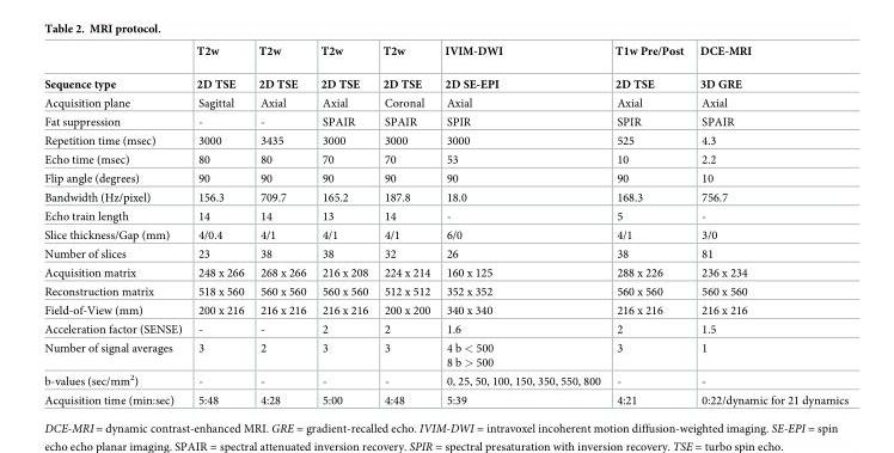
<table><thead><tr><td rowspan="2">Sequence type</td><td rowspan="2">T2w 2D TSE</td><td rowspan="2">T2w 2D TSE</td><td rowspan="2">T2w 2D TSE</td><td rowspan="2">T2w 2D TSE</td><td rowspan="2">IVIM-DWI 2D SE-EPI</td><td rowspan="2">T1w Pre/Post 2D TSE</td><td rowspan="2">DCE-MRI 3D GRE</td></tr><tr></tr></thead><tbody><tr><td>Acquisition plane</td><td>Sagittal</td><td>Axial</td><td>Axial</td><td>Coronal</td><td>Axial</td><td>Axial</td><td>Axial</td></tr><tr><td>Fat suppression</td><td>-</td><td>-</td><td>SPAIR</td><td>SPAIR</td><td>SPIR</td><td>SPIR</td><td>SPAIR</td></tr><tr><td>Repetition time (msec)</td><td>3000</td><td>3435</td><td>3000</td><td>3000</td><td>3000</td><td>525</td><td>4.3</td></tr><tr><td>Echo time (msec)</td><td>80</td><td>80</td><td>70</td><td>70</td><td>53</td><td>10</td><td>2.2</td></tr><tr><td>Flip angle (degrees)</td><td>90</td><td>90</td><td>90</td><td>90</td><td>90</td><td>90</td><td>10</td></tr><tr><td>Bandwidth (Hz/pixel)</td><td>156.3</td><td>709.7</td><td>165.2</td><td>187.8</td><td>18.0</td><td>168.3</td><td>756.7</td></tr><tr><td>Echo train length</td><td>14</td><td>14</td><td>13</td><td>14</td><td>-</td><td>5</td><td>-</td></tr><tr><td>Slice thickness/Gap (mm)</td><td>4/0.4</td><td>4/1</td><td>4/1</td><td>4/1</td><td>6/0</td><td>4/1</td><td>3/0</td></tr><tr><td>Number of slices</td><td>23</td><td>38</td><td>38</td><td>32</td><td>26</td><td>38</td><td>81</td></tr><tr><td>Acquisition matrix</td><td>248 x 266</td><td>268 x 266</td><td>216 x 208</td><td>224 x 214</td><td>160 x 125</td><td>288 x 226</td><td>236 x 234</td></tr><tr><td>Reconstruction matrix</td><td>518 x 560</td><td>560 x 560</td><td>560 x 560</td><td>512 x 512</td><td>352 x 352</td><td>560 x 560</td><td>560 x 560</td></tr><tr><td>Field-of-View (mm)</td><td>200 x 216</td><td>216 x 216</td><td>216 x 216</td><td>200 x 200</td><td>340 x 340</td><td>216 x 216</td><td>216 x 216</td></tr><tr><td>Acceleration factor (SENSE)</td><td>-</td><td>-</td><td>2</td><td>2</td><td>1.6</td><td>2</td><td>1.5</td></tr><tr><td>Number of signal averages</td><td>3</td><td>2</td><td>3</td><td>3</td><td>4 b &lt; 500 8 b &gt; 500</td><td>3</td><td>1</td></tr><tr><td>b-values (sec/mm<sup>2</sup>)</td><td>-</td><td>-</td><td>-</td><td>-</td><td>0, 25, 50, 100, 150, 350, 550, 800</td><td>-</td><td>-</td></tr><tr><td>Acquisition time (min:sec)</td><td>5:48</td><td>4:28</td><td>5:00</td><td>4:48</td><td>5:39</td><td>4:21</td><td>0:22/dynamic for 21 dynamics</td></tr></tbody></table>